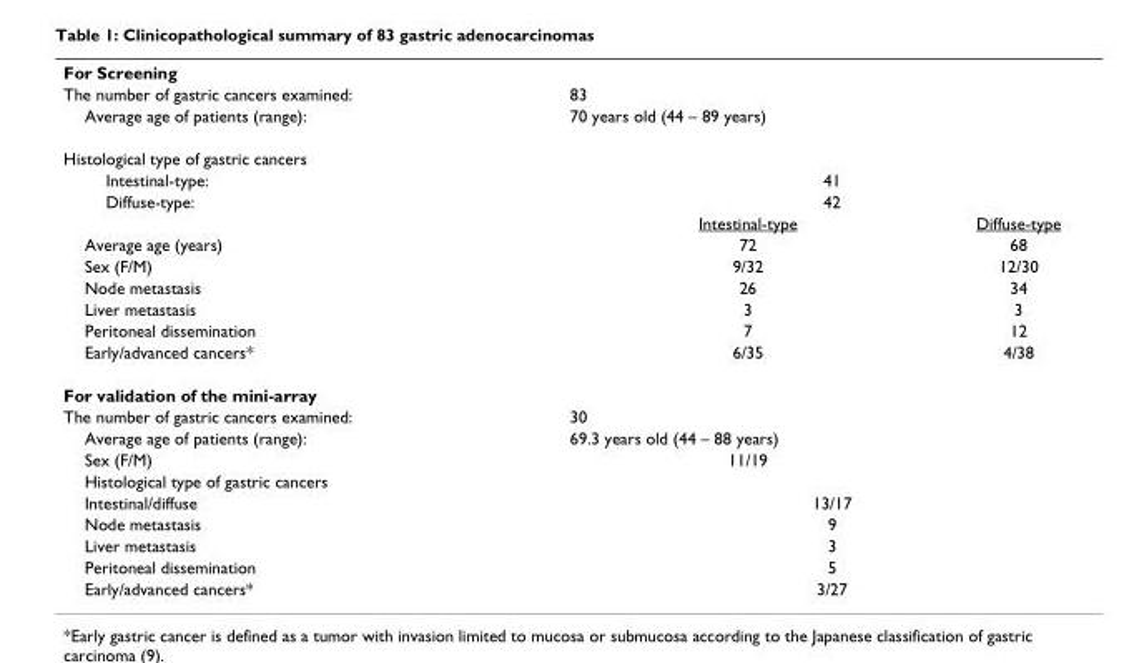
<table><tbody><tr><td colspan="3">For Screening</td></tr><tr><td>The number of gastric cancers examined:</td><td colspan="2">83</td></tr><tr><td>Average age of patients (range):</td><td colspan="2">70 years old (44 – 89 years)</td></tr><tr><td colspan="3">Histological type of gastric cancers</td></tr><tr><td>Intestinal-type:</td><td colspan="2">41</td></tr><tr><td rowspan="2">Diffuse-type:</td><td colspan="2">42</td></tr><tr><td>Intestinal-type</td><td>Diffuse-type</td></tr><tr><td>Average age (years)</td><td>72</td><td>68</td></tr><tr><td>Sex (F/M)</td><td>9/32</td><td>12/30</td></tr><tr><td>Node metastasis</td><td>26</td><td>34</td></tr><tr><td>Liver metastasis</td><td>3</td><td>3</td></tr><tr><td>Peritoneal dissemination</td><td>7</td><td>12</td></tr><tr><td>Early/advanced cancers*</td><td>6/35</td><td>4/38</td></tr><tr><td colspan="3">For validation of the mini-array</td></tr><tr><td>The number of gastric cancers examined:</td><td>30</td><td></td></tr><tr><td>Average age of patients (range):</td><td>69.3 years old (44 – 88 years)</td><td></td></tr><tr><td>Sex (F/M)</td><td>11/19</td><td></td></tr><tr><td colspan="3">Histological type of gastric cancers</td></tr><tr><td>Intestinal/diffuse</td><td colspan="2">13/17</td></tr><tr><td>Node metastasis</td><td colspan="2">9</td></tr><tr><td>Liver metastasis</td><td colspan="2">3</td></tr><tr><td>Peritoneal dissemination</td><td colspan="2">5</td></tr><tr><td>Early/advanced cancers*</td><td colspan="2">3/27</td></tr></tbody></table>